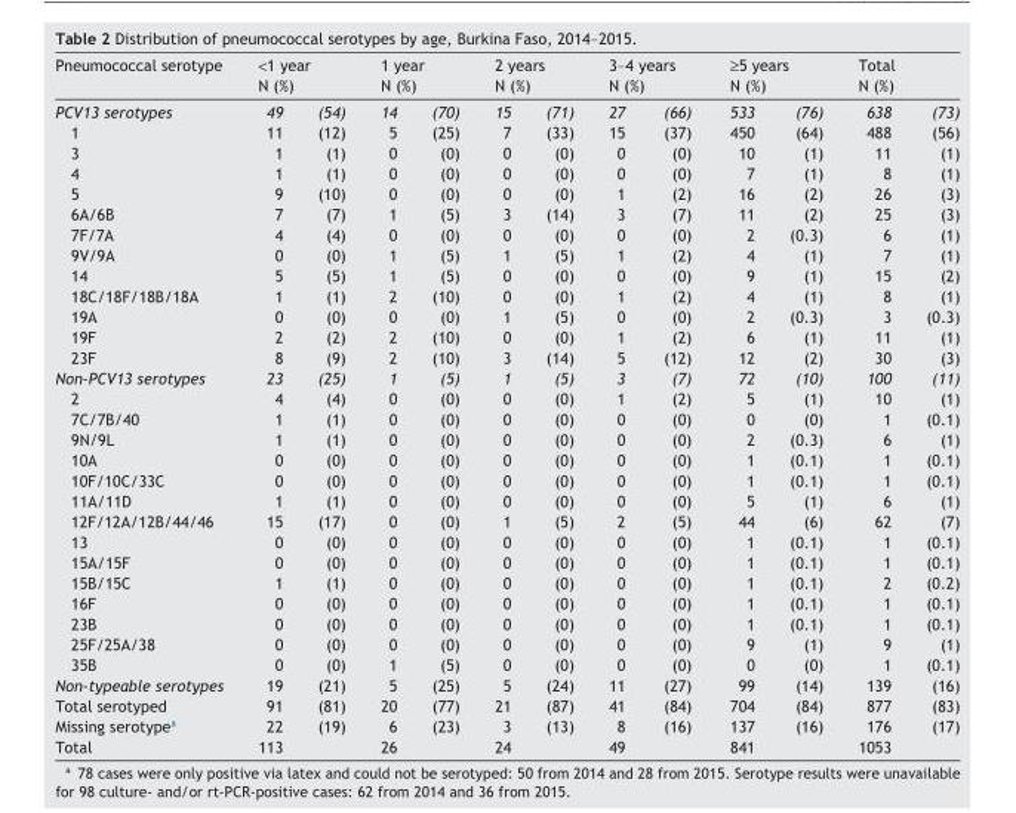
<table><thead><tr><td rowspan="2">Pneumococcal serotype PCV13 serotypes</td><td colspan="2">&lt;1 year N (%)</td><td colspan="2">1 year N (%)</td><td colspan="2">2 years N (%)</td><td colspan="2">3–4 years N (%)</td><td colspan="2">≥5 years N (%)</td><td colspan="2">Total N (%)</td></tr><tr><td>49</td><td>(54)</td><td>14</td><td>(70)</td><td>15</td><td>(71)</td><td>27</td><td>(66)</td><td>533</td><td>(76)</td><td>638</td><td>(73)</td></tr></thead><tbody><tr><td>1</td><td>11</td><td>(12)</td><td>5</td><td>(25)</td><td>7</td><td>(33)</td><td>15</td><td>(37)</td><td>450</td><td>(64)</td><td>488</td><td>(56)</td></tr><tr><td>3</td><td>1</td><td>(1)</td><td>0</td><td>(0)</td><td>0</td><td>(0)</td><td>0</td><td>(0)</td><td>10</td><td>(1)</td><td>11</td><td>(1)</td></tr><tr><td>4</td><td>1</td><td>(1)</td><td>0</td><td>(0)</td><td>0</td><td>(0)</td><td>0</td><td>(0)</td><td>7</td><td>(1)</td><td>8</td><td>(1)</td></tr><tr><td>5</td><td>9</td><td>(10)</td><td>0</td><td>(0)</td><td>0</td><td>(0)</td><td>1</td><td>(2)</td><td>16</td><td>(2)</td><td>26</td><td>(3)</td></tr><tr><td>6A/6B</td><td>7</td><td>(7)</td><td>1</td><td>(5)</td><td>3</td><td>(14)</td><td>3</td><td>(7)</td><td>11</td><td>(2)</td><td>25</td><td>(3)</td></tr><tr><td>7F/7A</td><td>4</td><td>(4)</td><td>0</td><td>(0)</td><td>0</td><td>(0)</td><td>0</td><td>(0)</td><td>2</td><td>(0.3)</td><td>6</td><td>(1)</td></tr><tr><td>9V/9A</td><td>0</td><td>(0)</td><td>1</td><td>(5)</td><td>1</td><td>(5)</td><td>1</td><td>(2)</td><td>4</td><td>(1)</td><td>7</td><td>(1)</td></tr><tr><td>14</td><td>5</td><td>(5)</td><td>1</td><td>(5)</td><td>0</td><td>(0)</td><td>0</td><td>(0)</td><td>9</td><td>(1)</td><td>15</td><td>(2)</td></tr><tr><td>18C/18F/18B/18A</td><td>1</td><td>(1)</td><td>2</td><td>(10)</td><td>0</td><td>(0)</td><td>1</td><td>(2)</td><td>4</td><td>(1)</td><td>8</td><td>(1)</td></tr><tr><td>19A</td><td>0</td><td>(0)</td><td>0</td><td>(0)</td><td>1</td><td>(5)</td><td>0</td><td>(0)</td><td>2</td><td>(0.3)</td><td>3</td><td>(0.3)</td></tr><tr><td>19F</td><td>2</td><td>(2)</td><td>2</td><td>(10)</td><td>0</td><td>(0)</td><td>1</td><td>(2)</td><td>6</td><td>(1)</td><td>11</td><td>(1)</td></tr><tr><td>23F</td><td>8</td><td>(9)</td><td>2</td><td>(10)</td><td>3</td><td>(14)</td><td>5</td><td>(12)</td><td>12</td><td>(2)</td><td>30</td><td>(3)</td></tr><tr><td>Non-PCV13 serotypes</td><td>23</td><td>(25)</td><td>1</td><td>(5)</td><td>1</td><td>(5)</td><td>3</td><td>(7)</td><td>72</td><td>(10)</td><td>100</td><td>(11)</td></tr><tr><td>2</td><td>4</td><td>(4)</td><td>0</td><td>(0)</td><td>0</td><td>(0)</td><td>1</td><td>(2)</td><td>5</td><td>(1)</td><td>10</td><td>(1)</td></tr><tr><td>7C/7B/40</td><td>1</td><td>(1)</td><td>0</td><td>(0)</td><td>0</td><td>(0)</td><td>0</td><td>(0)</td><td>0</td><td>(0)</td><td>1</td><td>(0.1)</td></tr><tr><td>9N/9L</td><td>1</td><td>(1)</td><td>0</td><td>(0)</td><td>0</td><td>(0)</td><td>0</td><td>(0)</td><td>2</td><td>(0.3)</td><td>6</td><td>(1)</td></tr><tr><td>10A</td><td>0</td><td>(0)</td><td>0</td><td>(0)</td><td>0</td><td>(0)</td><td>0</td><td>(0)</td><td>1</td><td>(0.1)</td><td>1</td><td>(0.1)</td></tr><tr><td>10F/10C/33C</td><td>0</td><td>(0)</td><td>0</td><td>(0)</td><td>0</td><td>(0)</td><td>0</td><td>(0)</td><td>1</td><td>(0.1)</td><td>1</td><td>(0.1)</td></tr><tr><td>11A/11D</td><td>1</td><td>(1)</td><td>0</td><td>(0)</td><td>0</td><td>(0)</td><td>0</td><td>(0)</td><td>5</td><td>(1)</td><td>6</td><td>(1)</td></tr><tr><td>12F/12A/12B/44/46</td><td>15</td><td>(17)</td><td>0</td><td>(0)</td><td>1</td><td>(5)</td><td>2</td><td>(5)</td><td>44</td><td>(6)</td><td>62</td><td>(7)</td></tr><tr><td>13</td><td>0</td><td>(0)</td><td>0</td><td>(0)</td><td>0</td><td>(0)</td><td>0</td><td>(0)</td><td>1</td><td>(0.1)</td><td>1</td><td>(0.1)</td></tr><tr><td>15A/15F</td><td>0</td><td>(0)</td><td>0</td><td>(0)</td><td>0</td><td>(0)</td><td>0</td><td>(0)</td><td>1</td><td>(0.1)</td><td>1</td><td>(0.1)</td></tr><tr><td>15B/15C</td><td>1</td><td>(1)</td><td>0</td><td>(0)</td><td>0</td><td>(0)</td><td>0</td><td>(0)</td><td>1</td><td>(0.1)</td><td>2</td><td>(0.2)</td></tr><tr><td>16F</td><td>0</td><td>(0)</td><td>0</td><td>(0)</td><td>0</td><td>(0)</td><td>0</td><td>(0)</td><td>1</td><td>(0.1)</td><td>1</td><td>(0.1)</td></tr><tr><td>23B</td><td>0</td><td>(0)</td><td>0</td><td>(0)</td><td>0</td><td>(0)</td><td>0</td><td>(0)</td><td>1</td><td>(0.1)</td><td>1</td><td>(0.1)</td></tr><tr><td>25F/25A/38</td><td>0</td><td>(0)</td><td>0</td><td>(0)</td><td>0</td><td>(0)</td><td>0</td><td>(0)</td><td>9</td><td>(1)</td><td>9</td><td>(1)</td></tr><tr><td>35B</td><td>0</td><td>(0)</td><td>1</td><td>(5)</td><td>0</td><td>(0)</td><td>0</td><td>(0)</td><td>0</td><td>(0)</td><td>1</td><td>(0.1)</td></tr><tr><td>Non-typeable serotypes</td><td>19</td><td>(21)</td><td>5</td><td>(25)</td><td>5</td><td>(24)</td><td>11</td><td>(27)</td><td>99</td><td>(14)</td><td>139</td><td>(16)</td></tr><tr><td>Total serotyped</td><td>91</td><td>(81)</td><td>20</td><td>(77)</td><td>21</td><td>(87)</td><td>41</td><td>(84)</td><td>704</td><td>(84)</td><td>877</td><td>(83)</td></tr><tr><td>Missing serotype<sup>a</sup></td><td>22</td><td>(19)</td><td>6</td><td>(23)</td><td>3</td><td>(13)</td><td>8</td><td>(16)</td><td>137</td><td>(16)</td><td>176</td><td>(17)</td></tr><tr><td>Total</td><td>113</td><td></td><td>26</td><td></td><td>24</td><td></td><td>49</td><td></td><td>841</td><td></td><td>1053</td><td></td></tr></tbody></table>